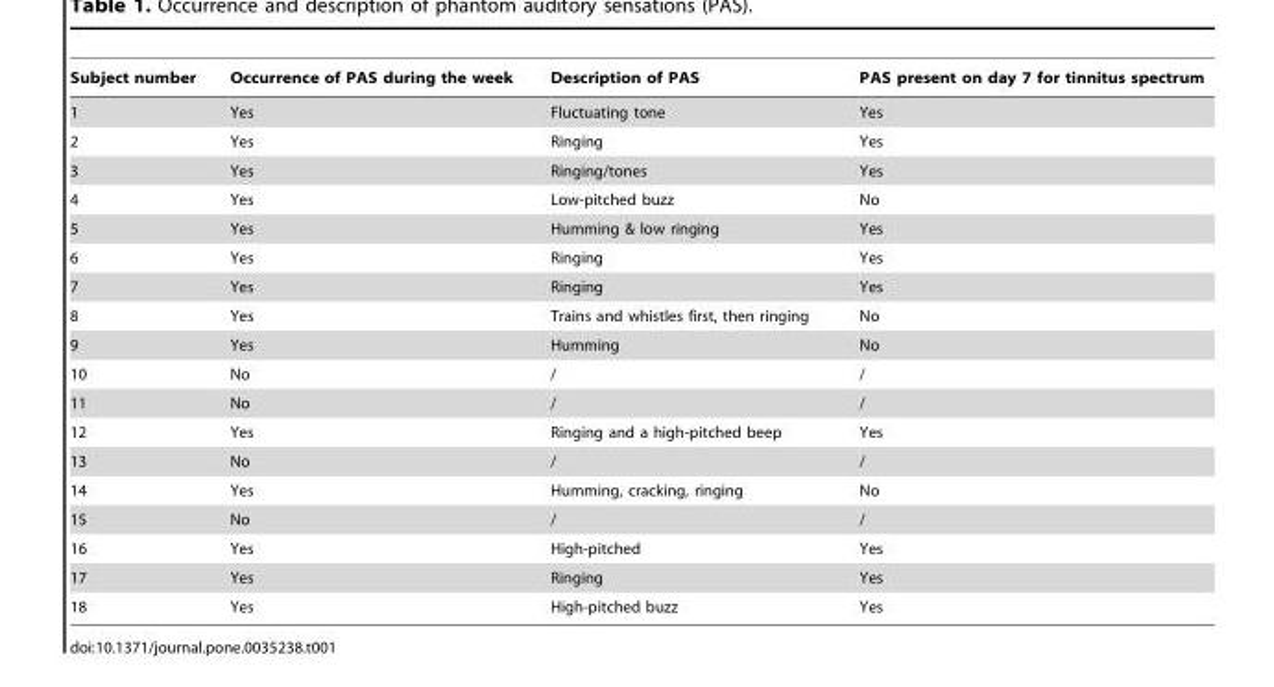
<table><thead><tr><td>Subject number</td><td>Occurrence of PAS during the week</td><td>Description of PAS</td><td>PAS present on day 7 for tinnitus spectrum</td></tr></thead><tbody><tr><td>1</td><td>Yes</td><td>Fluctuating tone</td><td>Yes</td></tr><tr><td>2</td><td>Yes</td><td>Ringing</td><td>Yes</td></tr><tr><td>3</td><td>Yes</td><td>Ringing/tones</td><td>Yes</td></tr><tr><td>4</td><td>Yes</td><td>Low-pitched buzz</td><td>No</td></tr><tr><td>5</td><td>Yes</td><td>Humming &amp; low ringing</td><td>Yes</td></tr><tr><td>6</td><td>Yes</td><td>Ringing</td><td>Yes</td></tr><tr><td>7</td><td>Yes</td><td>Ringing</td><td>Yes</td></tr><tr><td>8</td><td>Yes</td><td>Trains and whistles first, then ringing</td><td>No</td></tr><tr><td>9</td><td>Yes</td><td>Humming</td><td>No</td></tr><tr><td>10</td><td>No</td><td>/</td><td>/</td></tr><tr><td>11</td><td>No</td><td>/</td><td>/</td></tr><tr><td>12</td><td>Yes</td><td>Ringing and a high-pitched beep</td><td>Yes</td></tr><tr><td>13</td><td>No</td><td>/</td><td>/</td></tr><tr><td>14</td><td>Yes</td><td>Humming, cracking, ringing</td><td>No</td></tr><tr><td>15</td><td>No</td><td>/</td><td>/</td></tr><tr><td>16</td><td>Yes</td><td>High-pitched</td><td>Yes</td></tr><tr><td>17</td><td>Yes</td><td>Ringing</td><td>Yes</td></tr><tr><td>18</td><td>Yes</td><td>High-pitched buzz</td><td>Yes</td></tr></tbody></table>